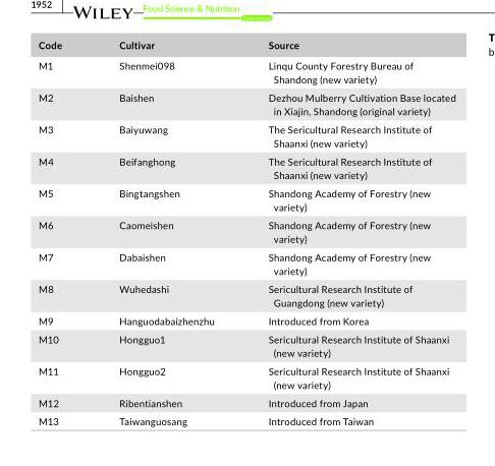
<table><thead><tr><td>Code</td><td>Cultivar</td><td>Source</td></tr></thead><tbody><tr><td>M1</td><td>Shenmei098</td><td>Linqu County Forestry Bureau of Shandong (new variety)</td></tr><tr><td>M2</td><td>Baishen</td><td>Dezhou Mulberry Cultivation Base located in Xiajin, Shandong (original variety)</td></tr><tr><td>M3</td><td>Baiyuwang</td><td>The Sericultural Research Institute of Shaanxi (new variety)</td></tr><tr><td>M4</td><td>Beifanghong</td><td>The Sericultural Research Institute of Shaanxi (new variety)</td></tr><tr><td>M5</td><td>Bingtangshen</td><td>Shandong Academy of Forestry (new variety)</td></tr><tr><td>M6</td><td>Caomeishen</td><td>Shandong Academy of Forestry (new variety)</td></tr><tr><td>M7</td><td>Dabaishen</td><td>Shandong Academy of Forestry (new variety)</td></tr><tr><td>M8</td><td>Wuhedashi</td><td>Sericultural Research Institute of Guangdong (new variety)</td></tr><tr><td>M9</td><td>Hanguodabaizhenzhu</td><td>Introduced from Korea</td></tr><tr><td>M10</td><td>Hongguo1</td><td>Sericultural Research Institute of Shaanxi (new variety)</td></tr><tr><td>M11</td><td>Hongguo2</td><td>Sericultural Research Institute of Shaanxi (new variety)</td></tr><tr><td>M12</td><td>Ribentianshen</td><td>Introduced from Japan</td></tr><tr><td>M13</td><td>Taiwanguosang</td><td>Introduced from Taiwan</td></tr></tbody></table>